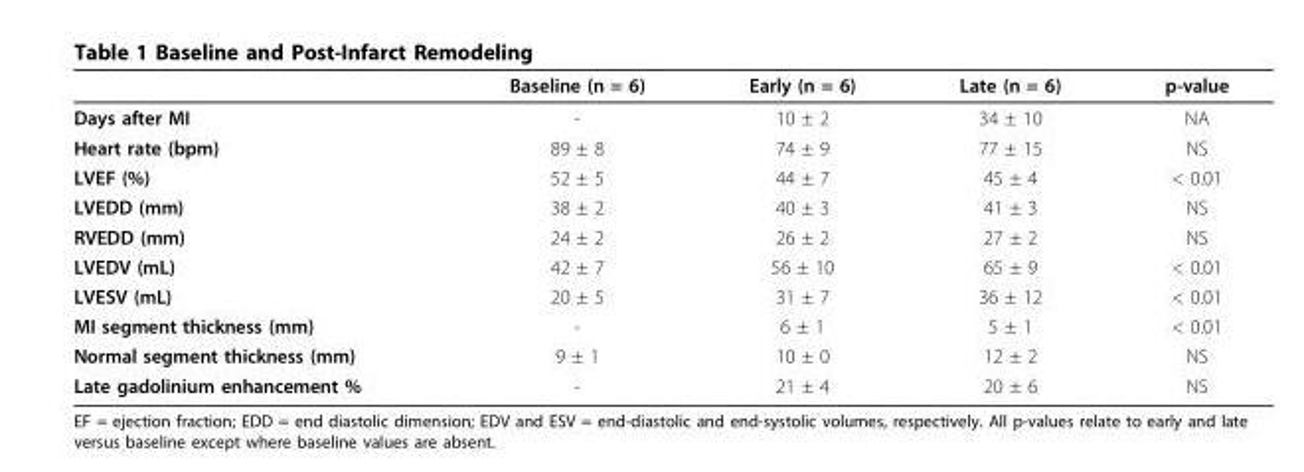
<table><thead><tr><td></td><td>Baseline (n = 6)</td><td>Early (n = 6)</td><td>Late (n = 6)</td><td>p-value</td></tr></thead><tbody><tr><td>Days after MI</td><td>-</td><td>10 ± 2</td><td>34 ± 10</td><td>NA</td></tr><tr><td>Heart rate (bpm)</td><td>89 ± 8</td><td>74 ± 9</td><td>77 ± 15</td><td>NS</td></tr><tr><td>LVEF (%)</td><td>52 ± 5</td><td>44 ± 7</td><td>45 ± 4</td><td>&lt; 0.01</td></tr><tr><td>LVEDD (mm)</td><td>38 ± 2</td><td>40 ± 3</td><td>41 ± 3</td><td>NS</td></tr><tr><td>RVEDD (mm)</td><td>24 ± 2</td><td>26 ± 2</td><td>27 ± 2</td><td>NS</td></tr><tr><td>LVEDV (mL)</td><td>42 ± 7</td><td>56 ± 10</td><td>65 ± 9</td><td>&lt; 0.01</td></tr><tr><td>LVESV (mL)</td><td>20 ± 5</td><td>31 ± 7</td><td>36 ± 12</td><td>&lt; 0.01</td></tr><tr><td>MI segment thickness (mm)</td><td>-</td><td>6 ± 1</td><td>5 ± 1</td><td>&lt; 0.01</td></tr><tr><td>Normal segment thickness (mm)</td><td>9 ± 1</td><td>10 ± 0</td><td>12 ± 2</td><td>NS</td></tr><tr><td>Late gadolinium enhancement %</td><td>-</td><td>21 ± 4</td><td>20 ± 6</td><td>NS</td></tr></tbody></table>